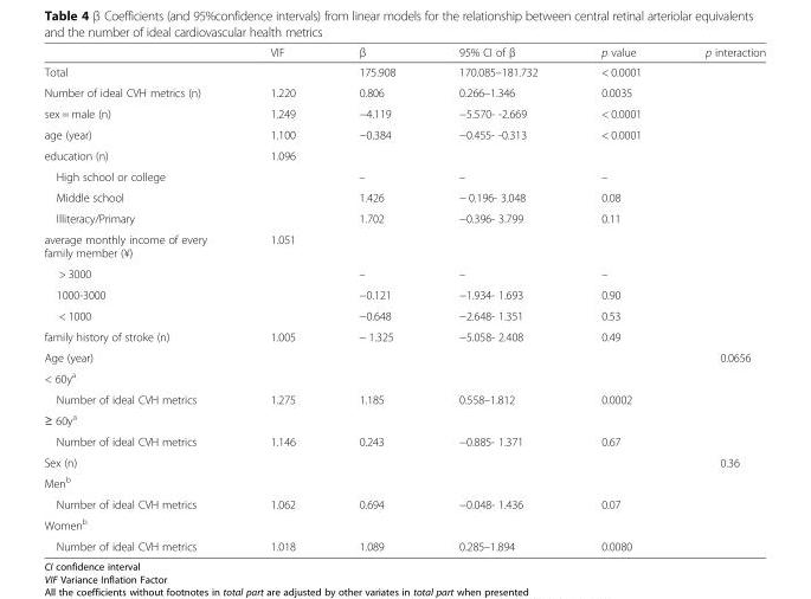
<table><thead><tr><td></td><td>VIF</td><td>β</td><td>95% CI of β</td><td>p value</td><td>p interaction</td></tr></thead><tbody><tr><td>Total</td><td></td><td>175.908</td><td>170.085–181.732</td><td>&lt; 0.0001</td><td></td></tr><tr><td>Number of ideal CVH metrics (n)</td><td>1.220</td><td>0.806</td><td>0.266–1.346</td><td>0.0035</td><td></td></tr><tr><td>sex = male (n)</td><td>1.249</td><td>−4.119</td><td>−5.570- -2.669</td><td>&lt; 0.0001</td><td></td></tr><tr><td>age (year)</td><td>1.100</td><td>−0.384</td><td>−0.455- -0.313</td><td>&lt; 0.0001</td><td></td></tr><tr><td>education (n)</td><td>1.096</td><td></td><td></td><td></td><td></td></tr><tr><td>High school or college</td><td></td><td>–</td><td>–</td><td>–</td><td></td></tr><tr><td>Middle school</td><td></td><td>1.426</td><td>− 0.196- 3.048</td><td>0.08</td><td></td></tr><tr><td>Illiteracy/Primary</td><td></td><td>1.702</td><td>−0.396- 3.799</td><td>0.11</td><td></td></tr><tr><td>average monthly income of every family member (¥)</td><td>1.051</td><td></td><td></td><td></td><td></td></tr><tr><td>&gt; 3000</td><td></td><td>–</td><td>–</td><td>–</td><td></td></tr><tr><td>1000-3000</td><td></td><td>−0.121</td><td>−1.934- 1.693</td><td>0.90</td><td></td></tr><tr><td>&lt; 1000</td><td></td><td>−0.648</td><td>−2.648- 1.351</td><td>0.53</td><td></td></tr><tr><td>family history of stroke (n)</td><td>1.005</td><td>− 1.325</td><td>−5.058- 2.408</td><td>0.49</td><td></td></tr><tr><td>Age (year)</td><td></td><td></td><td></td><td></td><td>0.0656</td></tr><tr><td colspan="6">&lt; 60y<sup>a</sup></td></tr><tr><td>Number of ideal CVH metrics</td><td>1.275</td><td>1.185</td><td>0.558–1.812</td><td>0.0002</td><td></td></tr><tr><td colspan="6">≥ 60y<sup>a</sup></td></tr><tr><td>Number of ideal CVH metrics</td><td>1.146</td><td>0.243</td><td>−0.885- 1.371</td><td>0.67</td><td></td></tr><tr><td>Sex (n)</td><td></td><td></td><td></td><td></td><td>0.36</td></tr><tr><td colspan="6">Men<sup>b</sup></td></tr><tr><td>Number of ideal CVH metrics</td><td>1.062</td><td>0.694</td><td>−0.048- 1.436</td><td>0.07</td><td></td></tr><tr><td colspan="6">Women<sup>b</sup></td></tr><tr><td>Number of ideal CVH metrics</td><td>1.018</td><td>1.089</td><td>0.285–1.894</td><td>0.0080</td><td></td></tr></tbody></table>